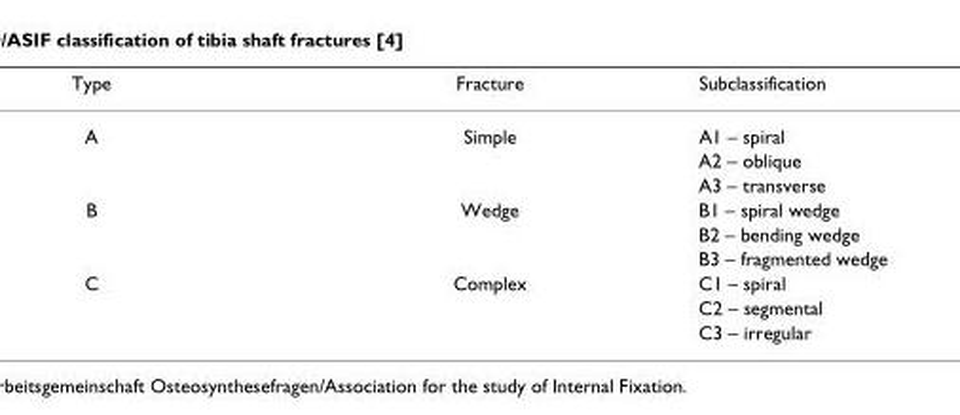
<table><thead><tr><td>Type</td><td>Fracture</td><td>Subclassification</td></tr></thead><tbody><tr><td rowspan="3">A</td><td>Simple</td><td>A1 – spiral</td></tr><tr><td></td><td>A2 – oblique</td></tr><tr><td></td><td>A3 – transverse</td></tr><tr><td rowspan="3">B</td><td>Wedge</td><td>B1 – spiral wedge</td></tr><tr><td></td><td>B2 – bending wedge</td></tr><tr><td></td><td>B3 – fragmented wedge</td></tr><tr><td rowspan="3">C</td><td>Complex</td><td>C1 – spiral</td></tr><tr><td></td><td>C2 – segmental</td></tr><tr><td></td><td>C3 – irregular</td></tr></tbody></table>